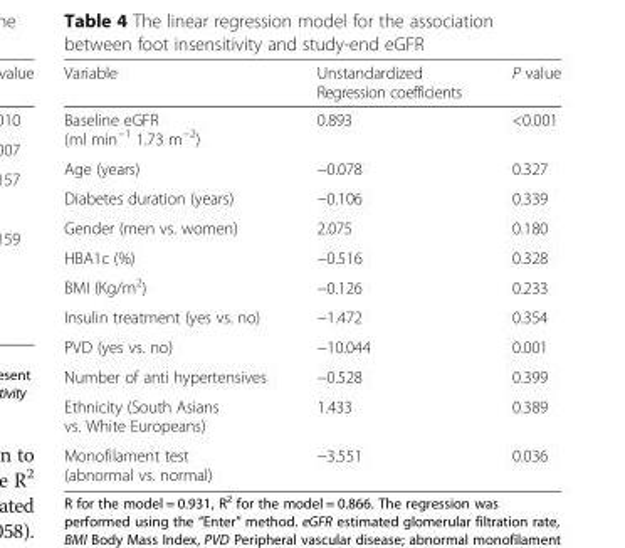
<table><thead><tr><td>Variable</td><td>Unstandardized Regression coefficients</td><td>P value</td></tr></thead><tbody><tr><td>Baseline eGFR (ml min<sup>−1</sup> 1.73 m<sup>−2</sup>)</td><td>0.893</td><td>&lt;0.001</td></tr><tr><td>Age (years)</td><td>−0.078</td><td>0.327</td></tr><tr><td>Diabetes duration (years)</td><td>−0.106</td><td>0.339</td></tr><tr><td>Gender (men vs. women)</td><td>2.075</td><td>0.180</td></tr><tr><td>HBA1c (%)</td><td>−0.516</td><td>0.328</td></tr><tr><td>BMI (Kg/m<sup>2</sup>)</td><td>−0.126</td><td>0.233</td></tr><tr><td>Insulin treatment (yes vs. no)</td><td>−1.472</td><td>0.354</td></tr><tr><td>PVD (yes vs. no)</td><td>−10.044</td><td>0.001</td></tr><tr><td>Number of anti hypertensives</td><td>−0.528</td><td>0.399</td></tr><tr><td>Ethnicity (South Asians vs. White Europeans)</td><td>1.433</td><td>0.389</td></tr><tr><td>Monofilament test (abnormal vs. normal)</td><td>−3.551</td><td>0.036</td></tr></tbody></table>